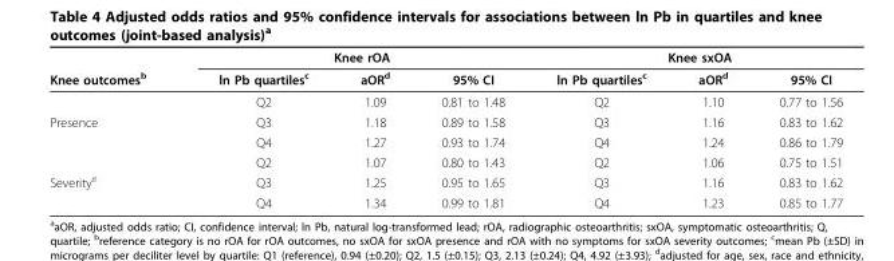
<table><thead><tr><td rowspan="2">Knee outcomes<sup>b</sup></td><td colspan="3">Knee rOA</td><td colspan="3">Knee sxOA</td></tr><tr><td>ln Pb quartiles<sup>c</sup></td><td>aOR<sup>d</sup></td><td>95% CI</td><td>ln Pb quartiles<sup>c</sup></td><td>aOR<sup>d</sup></td><td>95% CI</td></tr></thead><tbody><tr><td></td><td>Q2</td><td>1.09</td><td>0.81 to 1.48</td><td>Q2</td><td>1.10</td><td>0.77 to 1.56</td></tr><tr><td rowspan="3">Presence</td><td>Q3</td><td>1.18</td><td>0.89 to 1.58</td><td>Q3</td><td>1.16</td><td>0.83 to 1.62</td></tr><tr><td>Q4</td><td>1.27</td><td>0.93 to 1.74</td><td>Q4</td><td>1.24</td><td>0.86 to 1.79</td></tr><tr><td>Q2</td><td>1.07</td><td>0.80 to 1.43</td><td>Q2</td><td>1.06</td><td>0.75 to 1.51</td></tr><tr><td rowspan="2">Severity<sup>e</sup></td><td>Q3</td><td>1.25</td><td>0.95 to 1.65</td><td>Q3</td><td>1.16</td><td>0.83 to 1.62</td></tr><tr><td>Q4</td><td>1.34</td><td>0.99 to 1.81</td><td>Q4</td><td>1.23</td><td>0.85 to 1.77</td></tr></tbody></table>